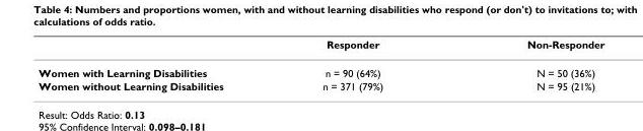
<table><thead><tr><td></td><td>Responder</td><td>Non-Responder</td></tr></thead><tbody><tr><td>Women with Learning Disabilities</td><td>n = 90 (64%)</td><td>N = 50 (36%)</td></tr><tr><td>Women without Learning Disabilities</td><td>n = 371 (79%)</td><td>N = 95 (21%)</td></tr></tbody></table>